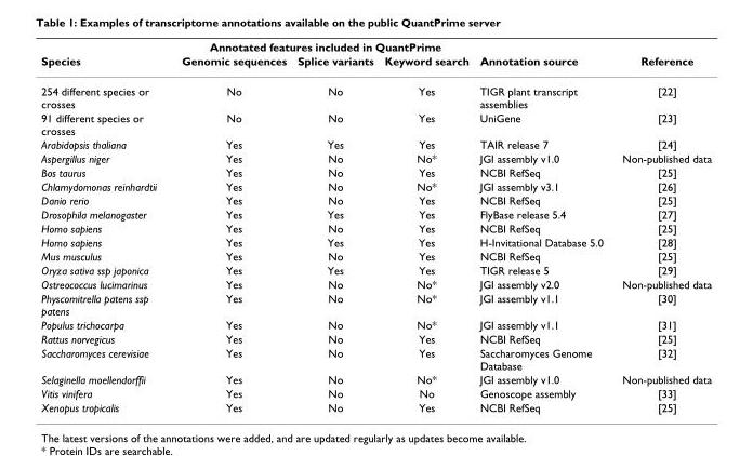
<table><thead><tr><td rowspan="2">Species</td><td colspan="3">Annotated features included in QuantPrime</td><td rowspan="2">Annotation source</td><td rowspan="2">Reference</td></tr><tr><td>Genomic sequences</td><td>Splice variants</td><td>Keyword search</td></tr></thead><tbody><tr><td>254 different species or crosses</td><td>No</td><td>No</td><td>Yes</td><td>TIGR plant transcript assemblies</td><td>[22]</td></tr><tr><td>91 different species or crosses</td><td>No</td><td>No</td><td>Yes</td><td>UniGene</td><td>[23]</td></tr><tr><td>Arabidopsis thaliana</td><td>Yes</td><td>Yes</td><td>Yes</td><td>TAIR release 7</td><td>[24]</td></tr><tr><td>Aspergillus niger</td><td>Yes</td><td>No</td><td>No*</td><td>JGI assembly v1.0</td><td>Non-published data</td></tr><tr><td>Bos taurus</td><td>Yes</td><td>No</td><td>Yes</td><td>NCBI RefSeq</td><td>[25]</td></tr><tr><td>Chlamydomonas reinhardtii</td><td>Yes</td><td>No</td><td>No*</td><td>JGI assembly v3.1</td><td>[26]</td></tr><tr><td>Danio rerio</td><td>Yes</td><td>No</td><td>Yes</td><td>NCBI RefSeq</td><td>[25]</td></tr><tr><td>Drosophila melanogaster</td><td>Yes</td><td>Yes</td><td>Yes</td><td>FlyBase release 5.4</td><td>[27]</td></tr><tr><td>Homo sapiens</td><td>Yes</td><td>No</td><td>Yes</td><td>NCBI RefSeq</td><td>[25]</td></tr><tr><td>Homo sapiens</td><td>Yes</td><td>Yes</td><td>Yes</td><td>H-Invitational Database 5.0</td><td>[28]</td></tr><tr><td>Mus musculus</td><td>Yes</td><td>No</td><td>Yes</td><td>NCBI RefSeq</td><td>[25]</td></tr><tr><td>Oryza sativa ssp japonica</td><td>Yes</td><td>Yes</td><td>Yes</td><td>TIGR release 5</td><td>[29]</td></tr><tr><td>Ostreococcus lucimarinus</td><td>Yes</td><td>No</td><td>No*</td><td>JGI assembly v2.0</td><td>Non-published data</td></tr><tr><td>Physcomitrella patens ssp patens</td><td>Yes</td><td>No</td><td>No*</td><td>JGI assembly v1.1</td><td>[30]</td></tr><tr><td>Populus trichocarpa</td><td>Yes</td><td>No</td><td>No*</td><td>JGI assembly v1.1</td><td>[31]</td></tr><tr><td>Rattus norvegicus</td><td>Yes</td><td>No</td><td>Yes</td><td>NCBI RefSeq</td><td>[25]</td></tr><tr><td>Saccharomyces cerevisiae</td><td>Yes</td><td>No</td><td>Yes</td><td>Saccharomyces Genome Database</td><td>[32]</td></tr><tr><td>Selaginella moellendorffii</td><td>Yes</td><td>No</td><td>No*</td><td>JGI assembly v1.0</td><td>Non-published data</td></tr><tr><td>Vitis vinifera</td><td>Yes</td><td>No</td><td>No</td><td>Genoscope assembly</td><td>[33]</td></tr><tr><td>Xenopus tropicalis</td><td>Yes</td><td>No</td><td>Yes</td><td>NCBI RefSeq</td><td>[25]</td></tr></tbody></table>